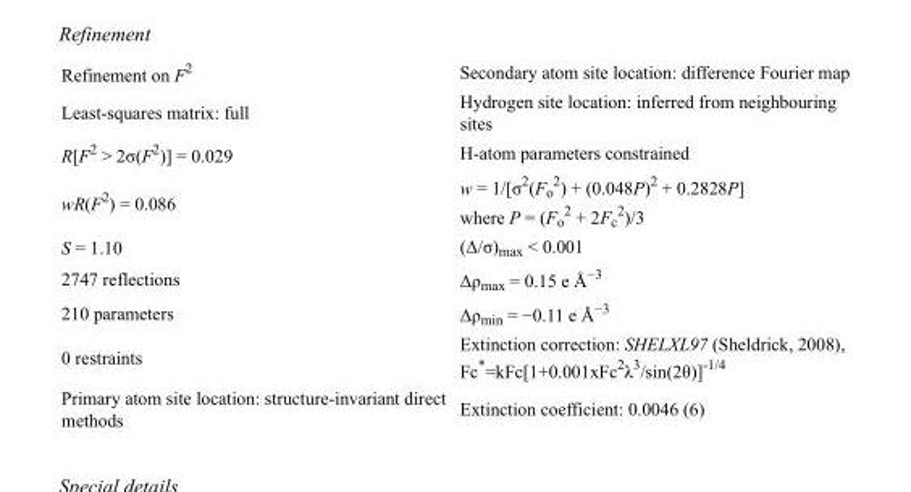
<table><tbody><tr><td>Refinement on F<sup>2</sup></td><td>Secondary atom site location: difference Fourier map</td></tr><tr><td>Least-squares matrix: full</td><td>Hydrogen site location: inferred from neighbouring sites</td></tr><tr><td>R[F<sup>2</sup> &gt; 2σ(F<sup>2</sup>)] = 0.029</td><td>H-atom parameters constrained</td></tr><tr><td>wR(F<sup>2</sup>) = 0.086</td><td>w = 1/[σ<sup>2</sup>(F<sub>o</sub> <sup>2</sup>) + (0.048P)<sup>2</sup> + 0.2828P] where P = (F<sub>o</sub> <sup>2</sup> + 2F<sub>c</sub> <sup>2</sup>)/3</td></tr><tr><td>S = 1.10</td><td>(Δ/σ)<sub>max</sub> &lt; 0.001</td></tr><tr><td>2747 reflections</td><td>Δρ<sub>max</sub> = 0.15 e Å<sup>−3</sup></td></tr><tr><td>210 parameters</td><td>Δρ<sub>min</sub> = −0.11 e Å<sup>−3</sup></td></tr><tr><td>0 restraints</td><td>Extinction correction: SHELXL97 (Sheldrick, 2008), Fc*=kFc[1+0.001xFc<sup>2</sup>λ<sup>3</sup>/sin(2θ)]<sup>-1/4</sup></td></tr><tr><td>Primary atom site location: structure-invariant direct methods</td><td>Extinction coefficient: 0.0046 (6)</td></tr></tbody></table>